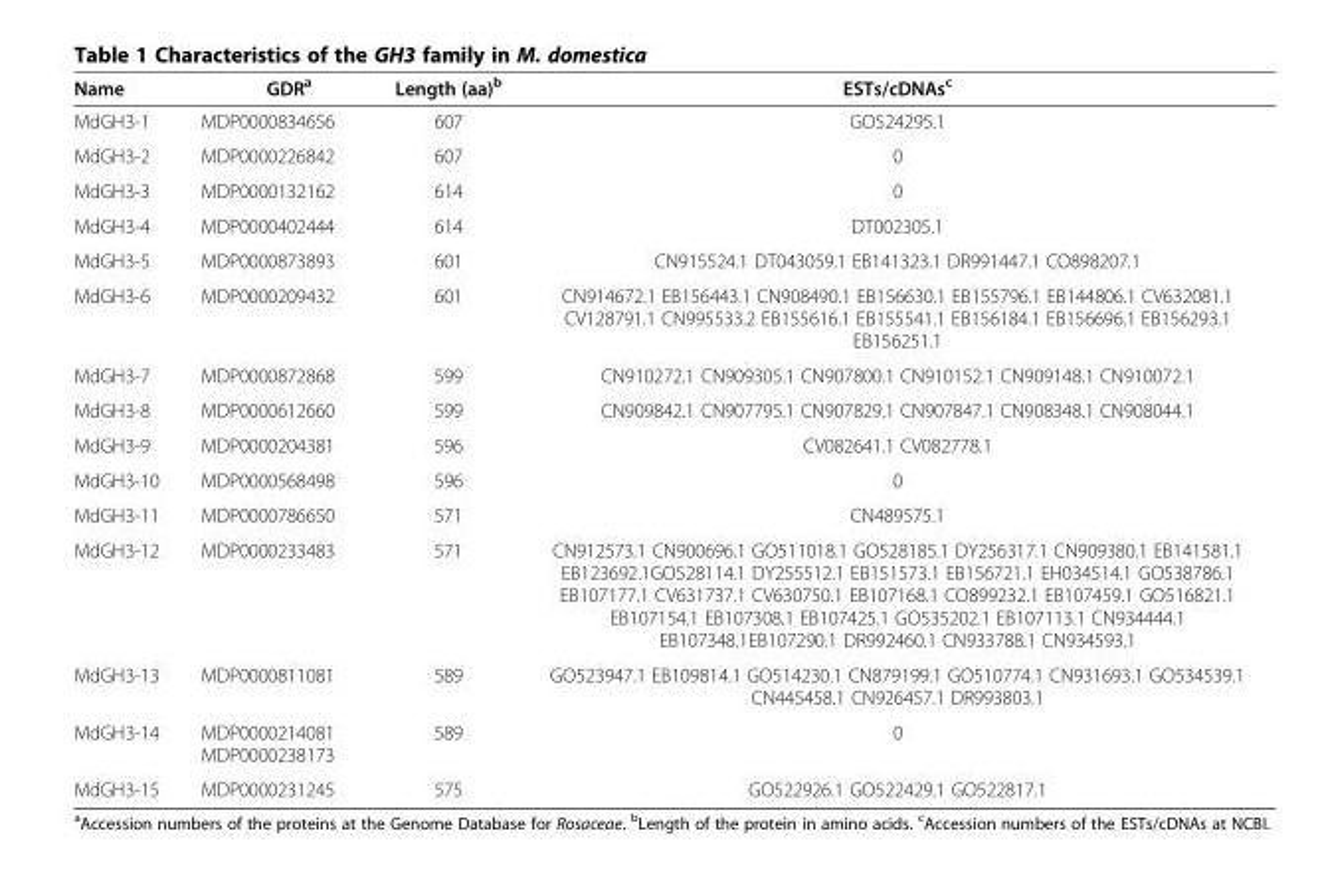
<table><thead><tr><td>Name</td><td>GDR<sup>a</sup></td><td>Length (aa)<sup>b</sup></td><td>ESTs/cDNAs<sup>c</sup></td></tr></thead><tbody><tr><td>MdGH3-1</td><td>MDP0000834656</td><td>607</td><td>GO524295.1</td></tr><tr><td>MdGH3-2</td><td>MDP0000226842</td><td>607</td><td>0</td></tr><tr><td>MdGH3-3</td><td>MDP0000132162</td><td>614</td><td>0</td></tr><tr><td>MdGH3-4</td><td>MDP0000402444</td><td>614</td><td>DT002305.1</td></tr><tr><td>MdGH3-5</td><td>MDP0000873893</td><td>601</td><td>CN915524.1 DT043059.1 EB141323.1 DR991447.1 CO898207.1</td></tr><tr><td>MdGH3-6</td><td>MDP0000209432</td><td>601</td><td>CN914672.1 EB156443.1 CN908490.1 EB156630.1 EB155796.1 EB144806.1 CV632081.1 CV128791.1 CN995533.2 EB155616.1 EB155541.1 EB156184.1 EB156696.1 EB156293.1 EB156251.1</td></tr><tr><td>MdGH3-7</td><td>MDP0000872868</td><td>599</td><td>CN910272.1 CN909305.1 CN907800.1 CN910152.1 CN909148.1 CN910072.1</td></tr><tr><td>MdGH3-8</td><td>MDP0000612660</td><td>599</td><td>CN909842.1 CN907795.1 CN907829.1 CN907847.1 CN908348.1 CN908044.1</td></tr><tr><td>MdGH3-9</td><td>MDP0000204381</td><td>596</td><td>CV082641.1 CV082778.1</td></tr><tr><td>MdGH3-10</td><td>MDP0000568498</td><td>596</td><td>0</td></tr><tr><td>MdGH3-11</td><td>MDP0000786650</td><td>571</td><td>CN489575.1</td></tr><tr><td>MdGH3-12</td><td>MDP0000233483</td><td>571</td><td>CN912573.1 CN900696.1 GO511018.1 GO528185.1 DY256317.1 CN909380.1 EB141581.1 EB123692.1GO528114.1 DY255512.1 EB151573.1 EB156721.1 EH034514.1 GO538786.1 EB107177.1 CV631737.1 CV630750.1 EB107168.1 CO899232.1 EB107459.1 GO516821.1 EB107154.1 EB107308.1 EB107425.1 GO535202.1 EB107113.1 CN934444.1 EB107348.1EB107290.1 DR992460.1 CN933788.1 CN934593.1</td></tr><tr><td>MdGH3-13</td><td>MDP0000811081</td><td>589</td><td>GO523947.1 EB109814.1 GO514230.1 CN879199.1 GO510774.1 CN931693.1 GO534539.1 CN445458.1 CN926457.1 DR993803.1</td></tr><tr><td rowspan="2">MdGH3-14</td><td>MDP0000214081</td><td>589</td><td>0</td></tr><tr><td>MDP0000238173</td><td></td><td></td></tr><tr><td>MdGH3-15</td><td>MDP0000231245</td><td>575</td><td>GO522926.1 GO522429.1 GO522817.1</td></tr></tbody></table>